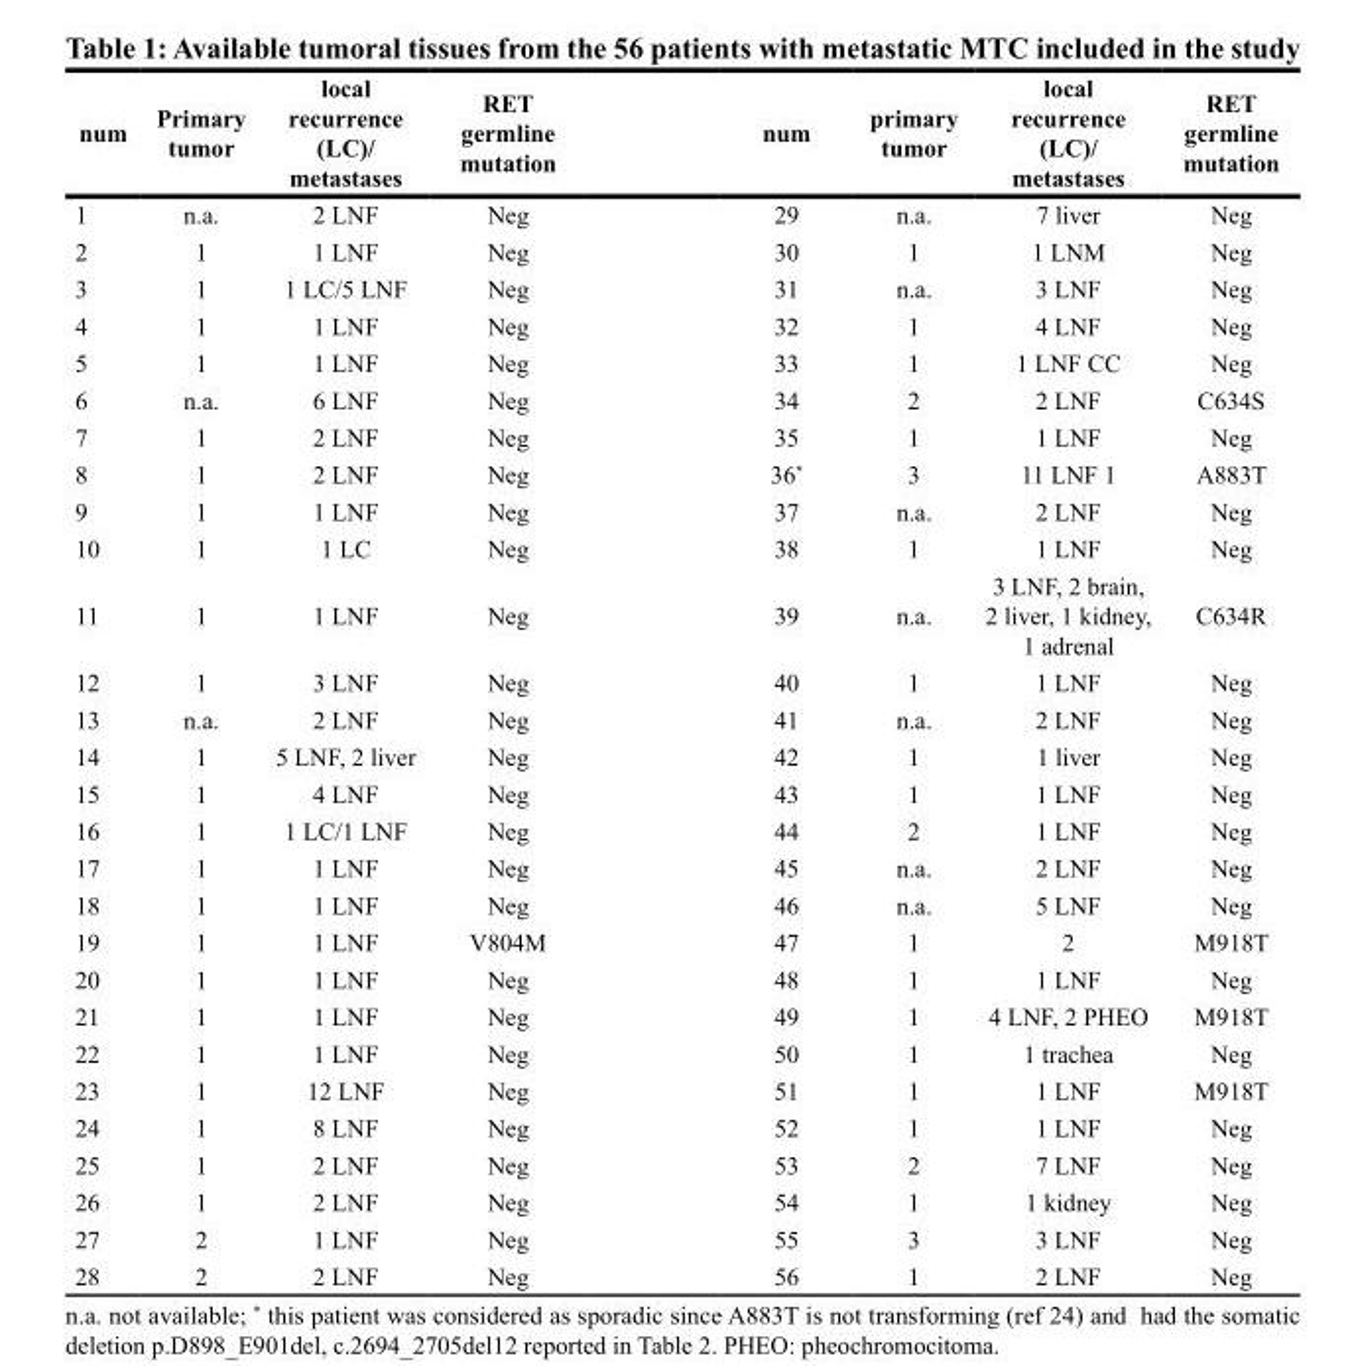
<table><thead><tr><td>num</td><td>Primary tumor</td><td>local recurrence (LC)/ metastases</td><td>RET germline mutation</td><td>num</td><td>primary tumor</td><td>local recurrence (LC)/ metastases</td><td>RET germline mutation</td></tr></thead><tbody><tr><td>1</td><td>n.a.</td><td>2 LNF</td><td>Neg</td><td>29</td><td>n.a.</td><td>7 liver</td><td>Neg</td></tr><tr><td>2</td><td>1</td><td>1 LNF</td><td>Neg</td><td>30</td><td>1</td><td>1 LNM</td><td>Neg</td></tr><tr><td>3</td><td>1</td><td>1 LC/5 LNF</td><td>Neg</td><td>31</td><td>n.a.</td><td>3 LNF</td><td>Neg</td></tr><tr><td>4</td><td>1</td><td>1 LNF</td><td>Neg</td><td>32</td><td>1</td><td>4 LNF</td><td>Neg</td></tr><tr><td>5</td><td>1</td><td>1 LNF</td><td>Neg</td><td>33</td><td>1</td><td>1 LNF CC</td><td>Neg</td></tr><tr><td>6</td><td>n.a.</td><td>6 LNF</td><td>Neg</td><td>34</td><td>2</td><td>2 LNF</td><td>C634S</td></tr><tr><td>7</td><td>1</td><td>2 LNF</td><td>Neg</td><td>35</td><td>1</td><td>1 LNF</td><td>Neg</td></tr><tr><td>8</td><td>1</td><td>2 LNF</td><td>Neg</td><td>36*</td><td>3</td><td>11 LNF 1</td><td>A883T</td></tr><tr><td>9</td><td>1</td><td>1 LNF</td><td>Neg</td><td>37</td><td>n.a.</td><td>2 LNF</td><td>Neg</td></tr><tr><td>10</td><td>1</td><td>1 LC</td><td>Neg</td><td>38</td><td>1</td><td>1 LNF</td><td>Neg</td></tr><tr><td>11</td><td>1</td><td>1 LNF</td><td>Neg</td><td>39</td><td>n.a.</td><td>3 LNF, 2 brain, 2 liver, 1 kidney, 1 adrenal</td><td>C634R</td></tr><tr><td>12</td><td>1</td><td>3 LNF</td><td>Neg</td><td>40</td><td>1</td><td>1 LNF</td><td>Neg</td></tr><tr><td>13</td><td>n.a.</td><td>2 LNF</td><td>Neg</td><td>41</td><td>n.a.</td><td>2 LNF</td><td>Neg</td></tr><tr><td>14</td><td>1</td><td>5 LNF, 2 liver</td><td>Neg</td><td>42</td><td>1</td><td>1 liver</td><td>Neg</td></tr><tr><td>15</td><td>1</td><td>4 LNF</td><td>Neg</td><td>43</td><td>1</td><td>1 LNF</td><td>Neg</td></tr><tr><td>16</td><td>1</td><td>1 LC/1 LNF</td><td>Neg</td><td>44</td><td>2</td><td>1 LNF</td><td>Neg</td></tr><tr><td>17</td><td>1</td><td>1 LNF</td><td>Neg</td><td>45</td><td>n.a.</td><td>2 LNF</td><td>Neg</td></tr><tr><td>18</td><td>1</td><td>1 LNF</td><td>Neg</td><td>46</td><td>n.a.</td><td>5 LNF</td><td>Neg</td></tr><tr><td>19</td><td>1</td><td>1 LNF</td><td>V804M</td><td>47</td><td>1</td><td>2</td><td>M918T</td></tr><tr><td>20</td><td>1</td><td>1 LNF</td><td>Neg</td><td>48</td><td>1</td><td>1 LNF</td><td>Neg</td></tr><tr><td>21</td><td>1</td><td>1 LNF</td><td>Neg</td><td>49</td><td>1</td><td>4 LNF, 2 PHEO</td><td>M918T</td></tr><tr><td>22</td><td>1</td><td>1 LNF</td><td>Neg</td><td>50</td><td>1</td><td>1 trachea</td><td>Neg</td></tr><tr><td>23</td><td>1</td><td>12 LNF</td><td>Neg</td><td>51</td><td>1</td><td>1 LNF</td><td>M918T</td></tr><tr><td>24</td><td>1</td><td>8 LNF</td><td>Neg</td><td>52</td><td>1</td><td>1 LNF</td><td>Neg</td></tr><tr><td>25</td><td>1</td><td>2 LNF</td><td>Neg</td><td>53</td><td>2</td><td>7 LNF</td><td>Neg</td></tr><tr><td>26</td><td>1</td><td>2 LNF</td><td>Neg</td><td>54</td><td>1</td><td>1 kidney</td><td>Neg</td></tr><tr><td>27</td><td>2</td><td>1 LNF</td><td>Neg</td><td>55</td><td>3</td><td>3 LNF</td><td>Neg</td></tr><tr><td>28</td><td>2</td><td>2 LNF</td><td>Neg</td><td>56</td><td>1</td><td>2 LNF</td><td>Neg</td></tr></tbody></table>